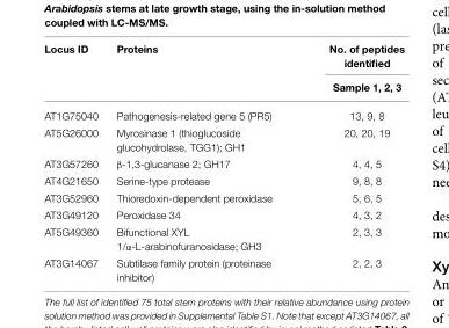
<table><thead><tr><td rowspan="2">Locus ID</td><td rowspan="2">Proteins</td><td rowspan="2">No. of peptides identified Sample 1, 2, 3</td></tr><tr></tr></thead><tbody><tr><td>AT1G75040</td><td>Pathogenesis-related gene 5 (PR5)</td><td>13, 9, 8</td></tr><tr><td>AT5G26000</td><td>Myrosinase 1 (thioglucoside glucohydrolase, TGG1); GH1</td><td>20, 20, 19</td></tr><tr><td>AT3G57260</td><td>β-1,3-glucanase 2; GH17</td><td>4, 4, 5</td></tr><tr><td>AT4G21650</td><td>Serine-type protease</td><td>9, 8, 8</td></tr><tr><td>AT3G52960</td><td>Thioredoxin-dependent peroxidase</td><td>5, 6, 5</td></tr><tr><td>AT3G49120</td><td>Peroxidase 34</td><td>4, 3, 2</td></tr><tr><td>AT5G49360</td><td>Bifunctional XYL 1/α-L-arabinofuranosidase; GH3</td><td>2, 3, 3</td></tr><tr><td>AT3G14067</td><td>Subtilase family protein (proteinase inhibitor)</td><td>2, 2, 3</td></tr></tbody></table>